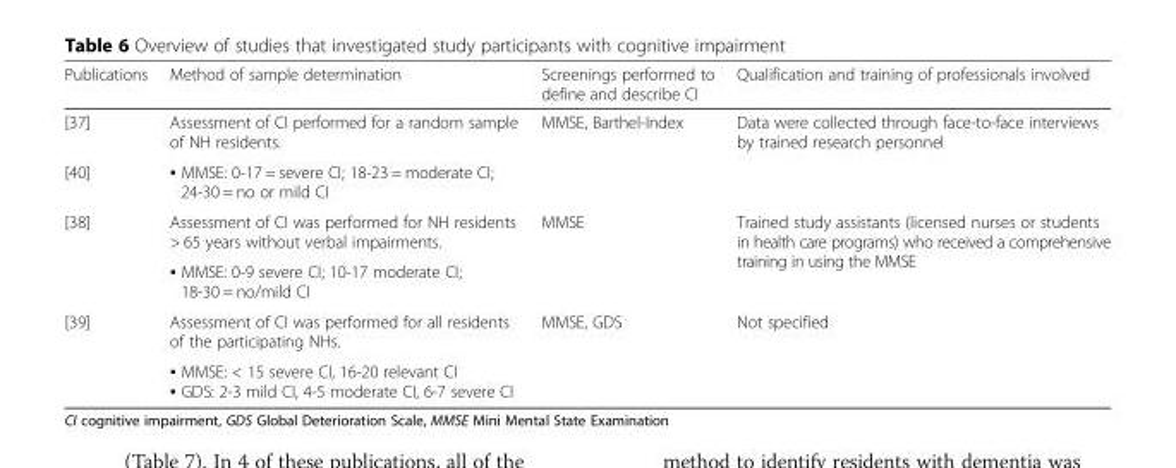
<table><thead><tr><td>Publications</td><td>Method of sample determination</td><td>Screenings performed to define and describe CI</td><td>Qualification and training of professionals involved</td></tr></thead><tbody><tr><td>[37]</td><td>Assessment of CI performed for a random sample of NH residents.</td><td rowspan="2">MMSE, Barthel-Index</td><td rowspan="2">Data were collected through face-to-face interviews by trained research personnel</td></tr><tr><td>[40]</td><td>▪ MMSE: 0-17 = severe CI; 18-23 = moderate CI; 24-30 = no or mild CI</td></tr><tr><td rowspan="2">[38]</td><td>Assessment of CI was performed for NH residents &gt; 65 years without verbal impairments.</td><td rowspan="2">MMSE</td><td rowspan="2">Trained study assistants (licensed nurses or students in health care programs) who received a comprehensive training in using the MMSE</td></tr><tr><td>▪ MMSE: 0-9 severe CI; 10-17 moderate CI; 18-30 = no/mild CI</td></tr><tr><td rowspan="2">[39]</td><td>Assessment of CI was performed for all residents of the participating NHs.</td><td rowspan="2">MMSE, GDS</td><td rowspan="2">Not specified</td></tr><tr><td>▪ MMSE: &lt; 15 severe CI, 16-20 relevant CI ▪ GDS: 2-3 mild CI, 4-5 moderate CI, 6-7 severe CI</td></tr></tbody></table>